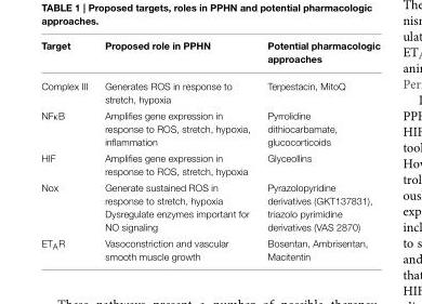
<table><thead><tr><td>Target</td><td>Proposed role in PPHN</td><td>Potential pharmacologic approaches</td></tr></thead><tbody><tr><td>Complex III</td><td>Generates ROS in response to stretch, hypoxia</td><td>Terpestacin, MitoQ</td></tr><tr><td>NFκB</td><td>Amplifies gene expression in response to ROS, stretch, hypoxia, inflammation</td><td>Pyrrolidine dithiocarbamate, glucocorticoids</td></tr><tr><td>HIF</td><td>Amplifies gene expression in response to ROS, stretch, hypoxia</td><td>Glyceollins</td></tr><tr><td>Nox</td><td>Generate sustained ROS in response to stretch, hypoxia Dysregulate enzymes important for NO signaling</td><td>Pyrazolopyridine derivatives (GKT137831), triazolo pyrimidine derivatives (VAS 2870)</td></tr><tr><td>ET<sub>A</sub>R</td><td>Vasoconstriction and vascular smooth muscle growth</td><td>Bosentan, Ambrisentan, Macitentin</td></tr></tbody></table>